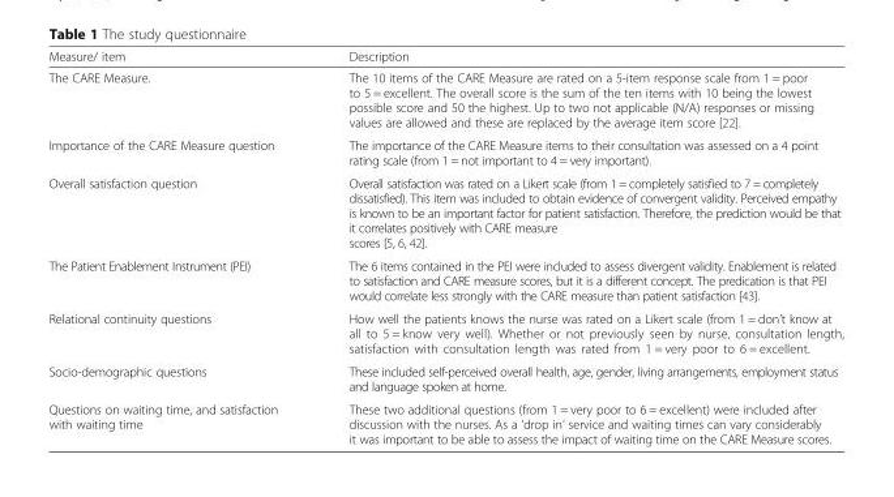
<table><thead><tr><td>Measure/ item</td><td>Description</td></tr></thead><tbody><tr><td>The CARE Measure.</td><td>The 10 items of the CARE Measure are rated on a 5-item response scale from 1 = poor to 5 = excellent. The overall score is the sum of the ten items with 10 being the lowest possible score and 50 the highest. Up to two not applicable (N/A) responses or missing values are allowed and these are replaced by the average item score [22].</td></tr><tr><td>Importance of the CARE Measure question</td><td>The importance of the CARE Measure items to their consultation was assessed on a 4 point rating scale (from 1 = not important to 4 = very important).</td></tr><tr><td>Overall satisfaction question</td><td>Overall satisfaction was rated on a Likert scale (from 1 = completely satisfied to 7 = completely dissatisfied). This item was included to obtain evidence of convergent validity. Perceived empathy is known to be an important factor for patient satisfaction. Therefore, the prediction would be that it correlates positively with CARE measure scores [5, 6, 42].</td></tr><tr><td>The Patient Enablement Instrument (PEI)</td><td>The 6 items contained in the PEI were included to assess divergent validity. Enablement is related to satisfaction and CARE measure scores, but it is a different concept. The predication is that PEI would correlate less strongly with the CARE measure than patient satisfaction [43].</td></tr><tr><td>Relational continuity questions</td><td>How well the patients knows the nurse was rated on a Likert scale (from 1 = don’t know at all to 5 = know very well). Whether or not previously seen by nurse, consultation length, satisfaction with consultation length was rated from 1 = very poor to 6 = excellent.</td></tr><tr><td>Socio-demographic questions</td><td>These included self-perceived overall health, age, gender, living arrangements, employment status and language spoken at home.</td></tr><tr><td>Questions on waiting time, and satisfaction with waiting time</td><td>These two additional questions (from 1 = very poor to 6 = excellent) were included after discussion with the nurses. As a ‘drop in’ service and waiting times can vary considerably it was important to be able to assess the impact of waiting time on the CARE Measure scores.</td></tr></tbody></table>